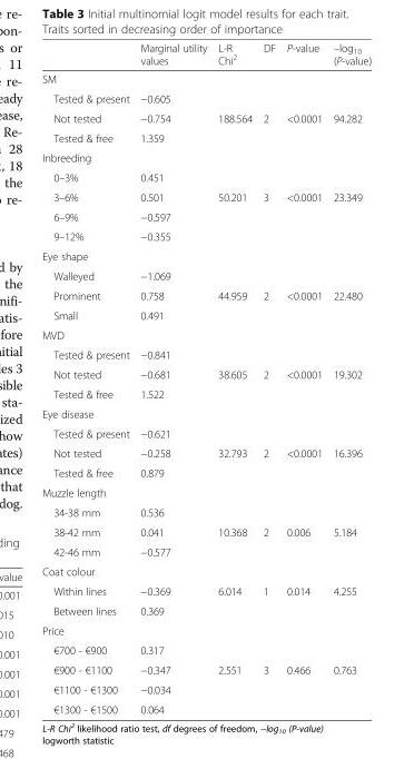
<table><thead><tr><td></td><td>Marginal utility values</td><td>L-R Chi<sup>2</sup></td><td>DF</td><td>P-value</td><td>–log<sub>10</sub> (P-value)</td></tr></thead><tbody><tr><td colspan="6">SM</td></tr><tr><td>Tested &amp; present</td><td>−0.605</td><td></td><td></td><td></td><td></td></tr><tr><td>Not tested</td><td>−0.754</td><td>188.564</td><td>2</td><td>&lt;0.0001</td><td>94.282</td></tr><tr><td>Tested &amp; free</td><td>1.359</td><td></td><td></td><td></td><td></td></tr><tr><td colspan="6">Inbreeding</td></tr><tr><td>0–3%</td><td>0.451</td><td></td><td></td><td></td><td></td></tr><tr><td>3–6%</td><td>0.501</td><td>50.201</td><td>3</td><td>&lt;0.0001</td><td>23.349</td></tr><tr><td>6–9%</td><td>−0.597</td><td></td><td></td><td></td><td></td></tr><tr><td>9–12%</td><td>−0.355</td><td></td><td></td><td></td><td></td></tr><tr><td colspan="6">Eye shape</td></tr><tr><td>Walleyed</td><td>−1.069</td><td></td><td></td><td></td><td></td></tr><tr><td>Prominent</td><td>0.758</td><td>44.959</td><td>2</td><td>&lt;0.0001</td><td>22.480</td></tr><tr><td>Small</td><td>0.491</td><td></td><td></td><td></td><td></td></tr><tr><td colspan="6">MVD</td></tr><tr><td>Tested &amp; present</td><td>−0.841</td><td></td><td></td><td></td><td></td></tr><tr><td>Not tested</td><td>−0.681</td><td>38.605</td><td>2</td><td>&lt;0.0001</td><td>19.302</td></tr><tr><td>Tested &amp; free</td><td>1.522</td><td></td><td></td><td></td><td></td></tr><tr><td colspan="6">Eye disease</td></tr><tr><td>Tested &amp; present</td><td>−0.621</td><td></td><td></td><td></td><td></td></tr><tr><td>Not tested</td><td>−0.258</td><td>32.793</td><td>2</td><td>&lt;0.0001</td><td>16.396</td></tr><tr><td>Tested &amp; free</td><td>0.879</td><td></td><td></td><td></td><td></td></tr><tr><td colspan="6">Muzzle length</td></tr><tr><td>34-38 mm</td><td>0.536</td><td></td><td></td><td></td><td></td></tr><tr><td>38-42 mm</td><td>0.041</td><td>10.368</td><td>2</td><td>0.006</td><td>5.184</td></tr><tr><td>42-46 mm</td><td>−0.577</td><td></td><td></td><td></td><td></td></tr><tr><td colspan="6">Coat colour</td></tr><tr><td>Within lines</td><td>−0.369</td><td>6.014</td><td>1</td><td>0.014</td><td>4.255</td></tr><tr><td>Between lines</td><td>0.369</td><td></td><td></td><td></td><td></td></tr><tr><td colspan="6">Price</td></tr><tr><td>€700 - €900</td><td>0.317</td><td></td><td></td><td></td><td></td></tr><tr><td>€900 - €1100</td><td>−0.347</td><td>2.551</td><td>3</td><td>0.466</td><td>0.763</td></tr><tr><td>€1100 - €1300</td><td>−0.034</td><td></td><td></td><td></td><td></td></tr><tr><td>€1300 - €1500</td><td>0.064</td><td></td><td></td><td></td><td></td></tr></tbody></table>